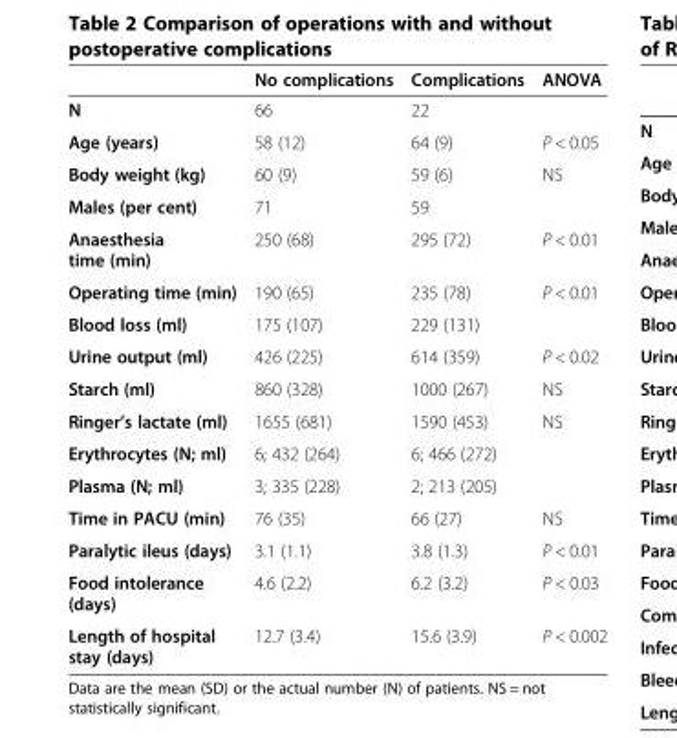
<table><thead><tr><td></td><td>No complications</td><td>Complications</td><td>ANOVA</td></tr></thead><tbody><tr><td>N</td><td>66</td><td>22</td><td></td></tr><tr><td>Age (years)</td><td>58 (12)</td><td>64 (9)</td><td>P &lt; 0.05</td></tr><tr><td>Body weight (kg)</td><td>60 (9)</td><td>59 (6)</td><td>NS</td></tr><tr><td>Males (per cent)</td><td>71</td><td>59</td><td></td></tr><tr><td>Anaesthesia time (min)</td><td>250 (68)</td><td>295 (72)</td><td>P &lt; 0.01</td></tr><tr><td>Operating time (min)</td><td>190 (65)</td><td>235 (78)</td><td>P &lt; 0.01</td></tr><tr><td>Blood loss (ml)</td><td>175 (107)</td><td>229 (131)</td><td></td></tr><tr><td>Urine output (ml)</td><td>426 (225)</td><td>614 (359)</td><td>P &lt; 0.02</td></tr><tr><td>Starch (ml)</td><td>860 (328)</td><td>1000 (267)</td><td>NS</td></tr><tr><td>Ringer’s lactate (ml)</td><td>1655 (681)</td><td>1590 (453)</td><td>NS</td></tr><tr><td>Erythrocytes (N; ml)</td><td>6; 432 (264)</td><td>6; 466 (272)</td><td></td></tr><tr><td>Plasma (N; ml)</td><td>3; 335 (228)</td><td>2; 213 (205)</td><td></td></tr><tr><td>Time in PACU (min)</td><td>76 (35)</td><td>66 (27)</td><td>NS</td></tr><tr><td>Paralytic ileus (days)</td><td>3.1 (1.1)</td><td>3.8 (1.3)</td><td>P &lt; 0.01</td></tr><tr><td>Food intolerance (days)</td><td>4.6 (2.2)</td><td>6.2 (3.2)</td><td>P &lt; 0.03</td></tr><tr><td>Length of hospital stay (days)</td><td>12.7 (3.4)</td><td>15.6 (3.9)</td><td>P &lt; 0.002</td></tr></tbody></table>